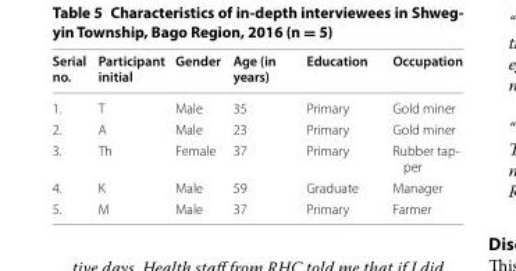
<table><thead><tr><td>Serial no.</td><td>Participant initial</td><td>Gender</td><td>Age (in years)</td><td>Education</td><td>Occupation</td></tr></thead><tbody><tr><td>1.</td><td>T</td><td>Male</td><td>35</td><td>Primary</td><td>Gold miner</td></tr><tr><td>2.</td><td>A</td><td>Male</td><td>23</td><td>Primary</td><td>Gold miner</td></tr><tr><td>3.</td><td>Th</td><td>Female</td><td>37</td><td>Primary</td><td>Rubber tap- per</td></tr><tr><td>4.</td><td>K</td><td>Male</td><td>59</td><td>Graduate</td><td>Manager</td></tr><tr><td>5.</td><td>M</td><td>Male</td><td>37</td><td>Primary</td><td>Farmer</td></tr></tbody></table>